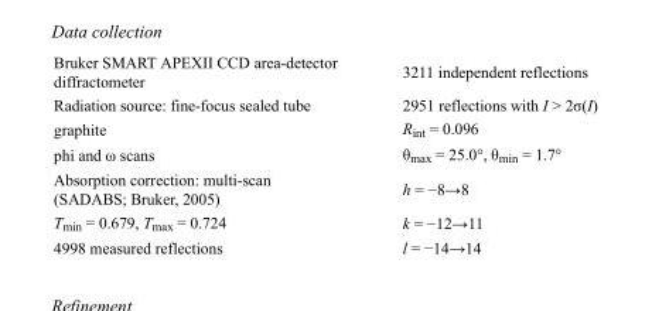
<table><tbody><tr><td>Bruker SMART APEXII CCD area-detector diffractometer</td><td>3211 independent reflections</td></tr><tr><td>Radiation source: fine-focus sealed tube</td><td>2951 reflections with I &gt; 2σ(I)</td></tr><tr><td>graphite</td><td>R<sub>int</sub> = 0.096</td></tr><tr><td>phi and ω scans</td><td>θ<sub>max</sub> = 25.0°, θ<sub>min</sub> = 1.7°</td></tr><tr><td>Absorption correction: multi-scan (SADABS; Bruker, 2005)</td><td>h = −8→8</td></tr><tr><td>T<sub>min</sub> = 0.679, T<sub>max</sub> = 0.724</td><td>k = −12→11</td></tr><tr><td>4998 measured reflections</td><td>l = −14→14</td></tr></tbody></table>